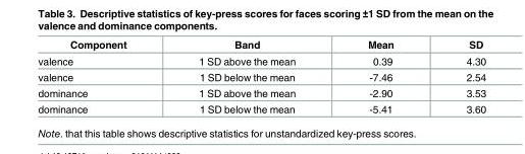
<table><thead><tr><td>Component</td><td>Band</td><td>Mean</td><td>SD</td></tr></thead><tbody><tr><td>valence</td><td>1 SD above the mean</td><td>0.39</td><td>4.30</td></tr><tr><td>valence</td><td>1 SD below the mean</td><td>-7.46</td><td>2.54</td></tr><tr><td>dominance</td><td>1 SD above the mean</td><td>-2.90</td><td>3.53</td></tr><tr><td>dominance</td><td>1 SD below the mean</td><td>-5.41</td><td>3.60</td></tr></tbody></table>